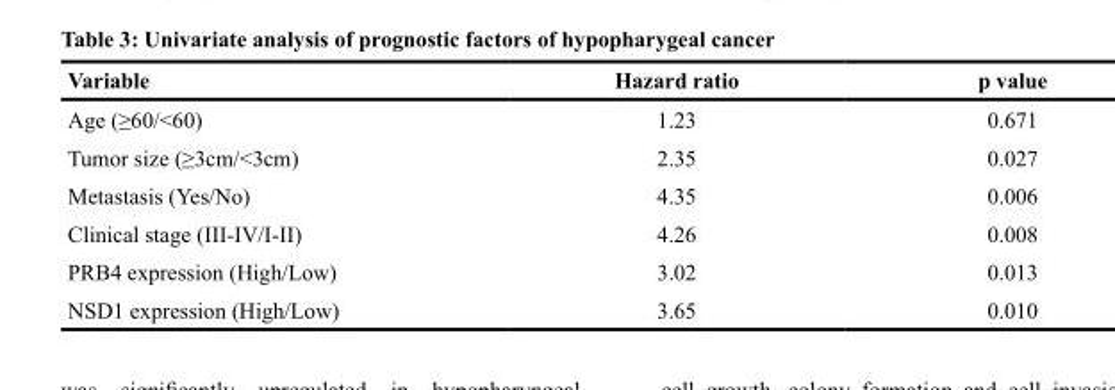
<table><thead><tr><td>Variable</td><td>Hazard ratio</td><td>p value</td></tr></thead><tbody><tr><td>Age (≥60/&lt;60)</td><td>1.23</td><td>0.671</td></tr><tr><td>Tumor size (≥3cm/&lt;3cm)</td><td>2.35</td><td>0.027</td></tr><tr><td>Metastasis (Yes/No)</td><td>4.35</td><td>0.006</td></tr><tr><td>Clinical stage (III-IV/I-II)</td><td>4.26</td><td>0.008</td></tr><tr><td>PRB4 expression (High/Low)</td><td>3.02</td><td>0.013</td></tr><tr><td>NSD1 expression (High/Low)</td><td>3.65</td><td>0.010</td></tr></tbody></table>